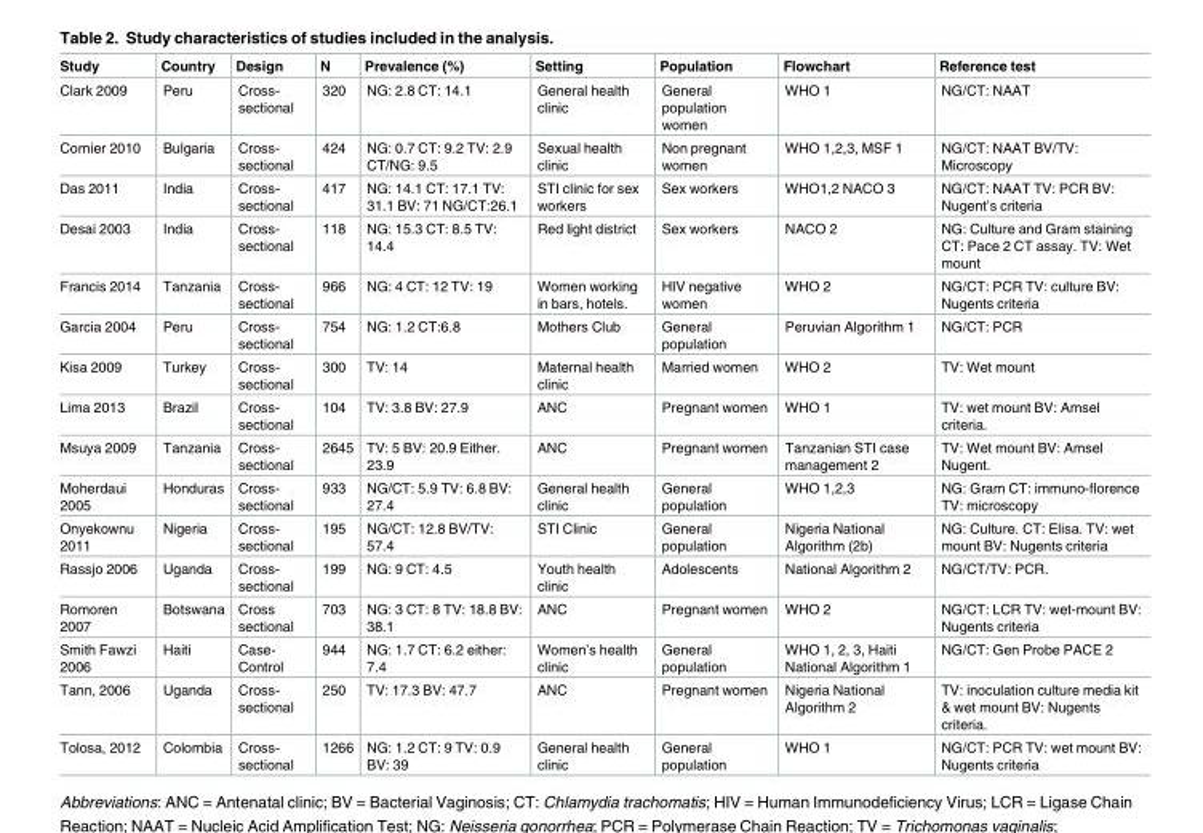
<table><thead><tr><td>Study</td><td>Country</td><td>Design</td><td>N</td><td>Prevalence (%)</td><td>Setting</td><td>Population</td><td>Flowchart</td><td>Reference test</td></tr></thead><tbody><tr><td>Clark 2009</td><td>Peru</td><td>Cross- sectional</td><td>320</td><td>NG: 2.8 CT: 14.1</td><td>General health clinic</td><td>General population women</td><td>WHO 1</td><td>NG/CT: NAAT</td></tr><tr><td>Cornier 2010</td><td>Bulgaria</td><td>Cross- sectional</td><td>424</td><td>NG: 0.7 CT: 9.2 TV: 2.9 CT/NG: 9.5</td><td>Sexual health clinic</td><td>Non pregnant women</td><td>WHO 1,2,3, MSF 1</td><td>NG/CT: NAAT BV/TV: Microscopy</td></tr><tr><td>Das 2011</td><td>India</td><td>Cross- sectional</td><td>417</td><td>NG: 14.1 CT: 17.1 TV: 31.1 BV: 71 NG/CT:26.1</td><td>STI clinic for sex workers</td><td>Sex workers</td><td>WHO1,2 NACO 3</td><td>NG/CT: NAAT TV: PCR BV: Nugent’s criteria</td></tr><tr><td>Desai 2003</td><td>India</td><td>Cross- sectional</td><td>118</td><td>NG: 15.3 CT: 8.5 TV: 14.4</td><td>Red light district</td><td>Sex workers</td><td>NACO 2</td><td>NG: Culture and Gram staining CT: Pace 2 CT assay. TV: Wet mount</td></tr><tr><td>Francis 2014</td><td>Tanzania</td><td>Cross- sectional</td><td>966</td><td>NG: 4 CT: 12 TV: 19</td><td>Women working in bars, hotels.</td><td>HIV negative women</td><td>WHO 2</td><td>NG/CT: PCR TV: culture BV: Nugents criteria</td></tr><tr><td>Garcia 2004</td><td>Peru</td><td>Cross- sectional</td><td>754</td><td>NG: 1.2 CT:6.8</td><td>Mothers Club</td><td>General population</td><td>Peruvian Algorithm 1</td><td>NG/CT: PCR</td></tr><tr><td>Kisa 2009</td><td>Turkey</td><td>Cross- sectional</td><td>300</td><td>TV: 14</td><td>Maternal health clinic</td><td>Married women</td><td>WHO 2</td><td>TV: Wet mount</td></tr><tr><td>Lima 2013</td><td>Brazil</td><td>Cross- sectional</td><td>104</td><td>TV: 3.8 BV: 27.9</td><td>ANC</td><td>Pregnant women</td><td>WHO 1</td><td>TV: wet mount BV: Amsel criteria.</td></tr><tr><td>Msuya 2009</td><td>Tanzania</td><td>Cross- sectional</td><td>2645</td><td>TV: 5 BV: 20.9 Either. 23.9</td><td>ANC</td><td>Pregnant women</td><td>Tanzanian STI case management 2</td><td>TV: Wet mount BV: Amsel Nugent.</td></tr><tr><td>Moherdaui 2005</td><td>Honduras</td><td>Cross- sectional</td><td>933</td><td>NG/CT: 5.9 TV: 6.8 BV: 27.4</td><td>General health clinic</td><td>General population</td><td>WHO 1,2,3</td><td>NG: Gram CT: immuno-florence TV: microscopy</td></tr><tr><td>Onyekownu 2011</td><td>Nigeria</td><td>Cross- sectional</td><td>195</td><td>NG/CT: 12.8 BV/TV: 57.4</td><td>STI Clinic</td><td>General population</td><td>Nigeria National Algorithm (2b)</td><td>NG: Culture. CT: Elisa. TV: wet mount BV: Nugents criteria</td></tr><tr><td>Rassjo 2006</td><td>Uganda</td><td>Cross- sectional</td><td>199</td><td>NG: 9 CT: 4.5</td><td>Youth health clinic</td><td>Adolescents</td><td>National Algorithm 2</td><td>NG/CT/TV: PCR.</td></tr><tr><td>Romoren 2007</td><td>Botswana</td><td>Cross sectional</td><td>703</td><td>NG: 3 CT: 8 TV: 18.8 BV: 38.1</td><td>ANC</td><td>Pregnant women</td><td>WHO 2</td><td>NG/CT: LCR TV: wet-mount BV: Nugents criteria</td></tr><tr><td>Smith Fawzi 2006</td><td>Haiti</td><td>Case- Control</td><td>944</td><td>NG: 1.7 CT: 6.2 either: 7.4</td><td>Women’s health clinic</td><td>General population</td><td>WHO 1, 2, 3, Haiti National Algorithm 1</td><td>NG/CT: Gen Probe PACE 2</td></tr><tr><td>Tann, 2006</td><td>Uganda</td><td>Cross- sectional</td><td>250</td><td>TV: 17.3 BV: 47.7</td><td>ANC</td><td>Pregnant women</td><td>Nigeria National Algorithm 2</td><td>TV: inoculation culture media kit &amp; wet mount BV: Nugents criteria.</td></tr><tr><td>Tolosa, 2012</td><td>Colombia</td><td>Cross- sectional</td><td>1266</td><td>NG: 1.2 CT: 9 TV: 0.9 BV: 39</td><td>General health clinic</td><td>General population</td><td>WHO 1</td><td>NG/CT: PCR TV: wet mount BV: Nugents criteria</td></tr></tbody></table>